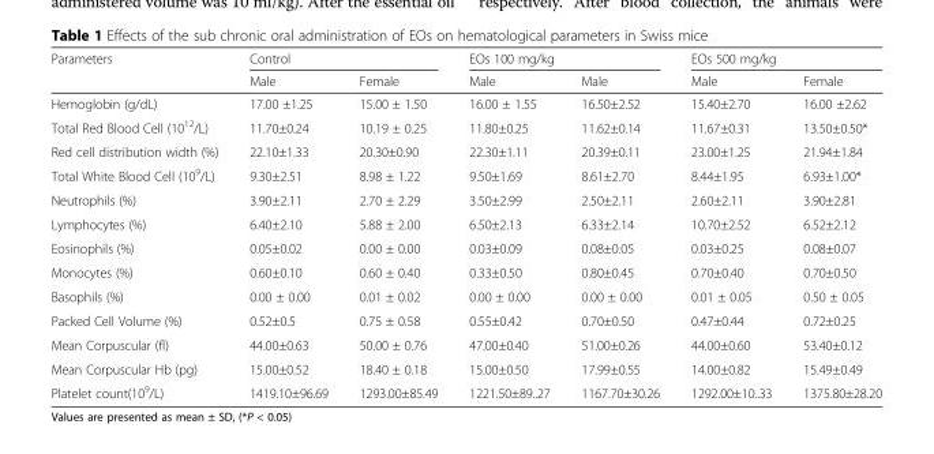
<table><thead><tr><td rowspan="2">Parameters</td><td colspan="2">Control</td><td colspan="2">EOs 100 mg/kg</td><td colspan="2">EOs 500 mg/kg</td></tr><tr><td>Male</td><td>Female</td><td>Male</td><td>Male</td><td>Male</td><td>Female</td></tr></thead><tbody><tr><td>Hemoglobin (g/dL)</td><td>17.00 ±1.25</td><td>15.00 ± 1.50</td><td>16.00 ± 1.55</td><td>16.50±2.52</td><td>15.40±2.70</td><td>16.00 ±2.62</td></tr><tr><td>Total Red Blood Cell (10<sup>12</sup>/L)</td><td>11.70±0.24</td><td>10.19 ± 0.25</td><td>11.80±0.25</td><td>11.62±0.14</td><td>11.67±0.31</td><td>13.50±0.50*</td></tr><tr><td>Red cell distribution width (%)</td><td>22.10±1.33</td><td>20.30±0.90</td><td>22.30±1.11</td><td>20.39±0.11</td><td>23.00±1.25</td><td>21.94±1.84</td></tr><tr><td>Total White Blood Cell (10<sup>9</sup>/L)</td><td>9.30±2.51</td><td>8.98 ± 1.22</td><td>9.50±1.69</td><td>8.61±2.70</td><td>8.44±1.95</td><td>6.93±1.00*</td></tr><tr><td>Neutrophils (%)</td><td>3.90±2.11</td><td>2.70 ± 2.29</td><td>3.50±2.99</td><td>2.50±2.11</td><td>2.60±2.11</td><td>3.90±2.81</td></tr><tr><td>Lymphocytes (%)</td><td>6.40±2.10</td><td>5.88 ± 2.00</td><td>6.50±2.13</td><td>6.33±2.14</td><td>10.70±2.52</td><td>6.52±2.12</td></tr><tr><td>Eosinophils (%)</td><td>0.05±0.02</td><td>0.00 ± 0.00</td><td>0.03±0.09</td><td>0.08±0.05</td><td>0.03±0.25</td><td>0.08±0.07</td></tr><tr><td>Monocytes (%)</td><td>0.60±0.10</td><td>0.60 ± 0.40</td><td>0.33±0.50</td><td>0.80±0.45</td><td>0.70±0.40</td><td>0.70±0.50</td></tr><tr><td>Basophils (%)</td><td>0.00 ± 0.00</td><td>0.01 ± 0.02</td><td>0.00 ± 0.00</td><td>0.00 ± 0.00</td><td>0.01 ± 0.05</td><td>0.50 ± 0.05</td></tr><tr><td>Packed Cell Volume (%)</td><td>0.52±0.5</td><td>0.75 ± 0.58</td><td>0.55±0.42</td><td>0.70±0.50</td><td>0.47±0.44</td><td>0.72±0.25</td></tr><tr><td>Mean Corpuscular (fl)</td><td>44.00±0.63</td><td>50.00 ± 0.76</td><td>47.00±0.40</td><td>51.00±0.26</td><td>44.00±0.60</td><td>53.40±0.12</td></tr><tr><td>Mean Corpuscular Hb (pg)</td><td>15.00±0.52</td><td>18.40 ± 0.18</td><td>15.00±0.50</td><td>17.99±0.55</td><td>14.00±0.82</td><td>15.49±0.49</td></tr><tr><td>Platelet count(10<sup>9</sup>/L)</td><td>1419.10±96.69</td><td>1293.00±85.49</td><td>1221.50±89..27</td><td>1167.70±30.26</td><td>1292.00±10..33</td><td>1375.80±28.20</td></tr></tbody></table>